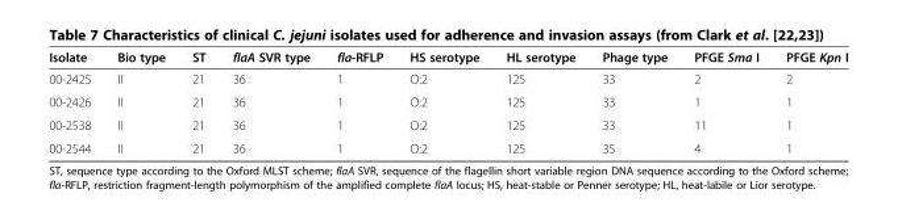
<table><thead><tr><td>Isolate</td><td>Bio type</td><td>ST</td><td>flaA SVR type</td><td>fla-RFLP</td><td>HS serotype</td><td>HL serotype</td><td>Phage type</td><td>PFGE Sma I</td><td>PFGE Kpn I</td></tr></thead><tbody><tr><td>00-2425</td><td>II</td><td>21</td><td>36</td><td>1</td><td>O:2</td><td>125</td><td>33</td><td>2</td><td>2</td></tr><tr><td>00-2426</td><td>II</td><td>21</td><td>36</td><td>1</td><td>O:2</td><td>125</td><td>33</td><td>1</td><td>1</td></tr><tr><td>00-2538</td><td>II</td><td>21</td><td>36</td><td>1</td><td>O:2</td><td>125</td><td>33</td><td>11</td><td>1</td></tr><tr><td>00-2544</td><td>II</td><td>21</td><td>36</td><td>1</td><td>O:2</td><td>125</td><td>35</td><td>4</td><td>1</td></tr></tbody></table>